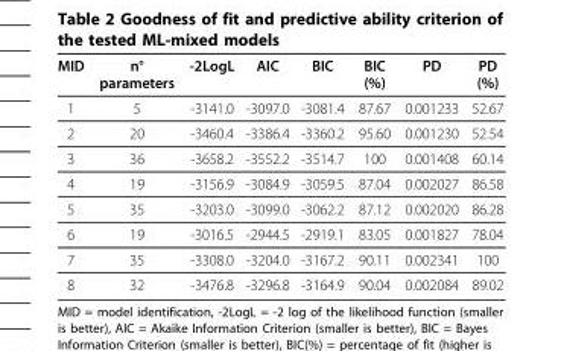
<table><thead><tr><td>MID</td><td>n° parameters</td><td>-2LogL</td><td>AIC</td><td>BIC</td><td>BIC (%)</td><td>PD</td><td>PD (%)</td></tr></thead><tbody><tr><td>1</td><td>5</td><td>-3141.0</td><td>-3097.0</td><td>-3081.4</td><td>87.67</td><td>0.001233</td><td>52.67</td></tr><tr><td>2</td><td>20</td><td>-3460.4</td><td>-3386.4</td><td>-3360.2</td><td>95.60</td><td>0.001230</td><td>52.54</td></tr><tr><td>3</td><td>36</td><td>-3658.2</td><td>-3552.2</td><td>-3514.7</td><td>100</td><td>0.001408</td><td>60.14</td></tr><tr><td>4</td><td>19</td><td>-3156.9</td><td>-3084.9</td><td>-3059.5</td><td>87.04</td><td>0.002027</td><td>86.58</td></tr><tr><td>5</td><td>35</td><td>-3203.0</td><td>-3099.0</td><td>-3062.2</td><td>87.12</td><td>0.002020</td><td>86.28</td></tr><tr><td>6</td><td>19</td><td>-3016.5</td><td>-2944.5</td><td>-2919.1</td><td>83.05</td><td>0.001827</td><td>78.04</td></tr><tr><td>7</td><td>35</td><td>-3308.0</td><td>-3204.0</td><td>-3167.2</td><td>90.11</td><td>0.002341</td><td>100</td></tr><tr><td>8</td><td>32</td><td>-3476.8</td><td>-3296.8</td><td>-3164.9</td><td>90.04</td><td>0.002084</td><td>89.02</td></tr></tbody></table>